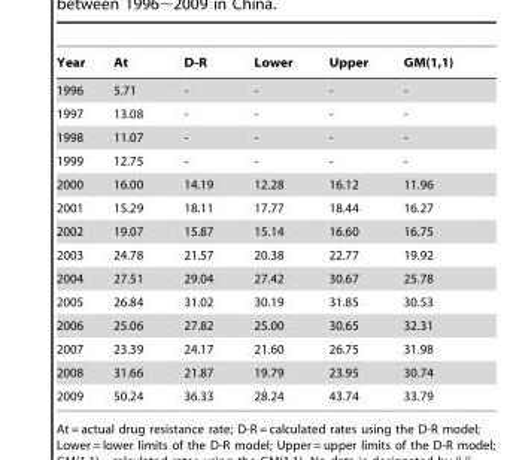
<table><thead><tr><td>Year</td><td>At</td><td>D-R</td><td>Lower</td><td>Upper</td><td>GM(1,1)</td></tr></thead><tbody><tr><td>1996</td><td>5.71</td><td>-</td><td>-</td><td>-</td><td>-</td></tr><tr><td>1997</td><td>13.08</td><td>-</td><td>-</td><td>-</td><td>-</td></tr><tr><td>1998</td><td>11.07</td><td>-</td><td>-</td><td>-</td><td>-</td></tr><tr><td>1999</td><td>12.75</td><td>-</td><td>-</td><td>-</td><td>-</td></tr><tr><td>2000</td><td>16.00</td><td>14.19</td><td>12.28</td><td>16.12</td><td>11.96</td></tr><tr><td>2001</td><td>15.29</td><td>18.11</td><td>17.77</td><td>18.44</td><td>16.27</td></tr><tr><td>2002</td><td>19.07</td><td>15.87</td><td>15.14</td><td>16.60</td><td>16.75</td></tr><tr><td>2003</td><td>24.78</td><td>21.57</td><td>20.38</td><td>22.77</td><td>19.92</td></tr><tr><td>2004</td><td>27.51</td><td>29.04</td><td>27.42</td><td>30.67</td><td>25.78</td></tr><tr><td>2005</td><td>26.84</td><td>31.02</td><td>30.19</td><td>31.85</td><td>30.53</td></tr><tr><td>2006</td><td>25.06</td><td>27.82</td><td>25.00</td><td>30.65</td><td>32.31</td></tr><tr><td>2007</td><td>23.39</td><td>24.17</td><td>21.60</td><td>26.75</td><td>31.98</td></tr><tr><td>2008</td><td>31.66</td><td>21.87</td><td>19.79</td><td>23.95</td><td>30.74</td></tr><tr><td>2009</td><td>50.24</td><td>36.33</td><td>28.24</td><td>43.74</td><td>33.79</td></tr></tbody></table>